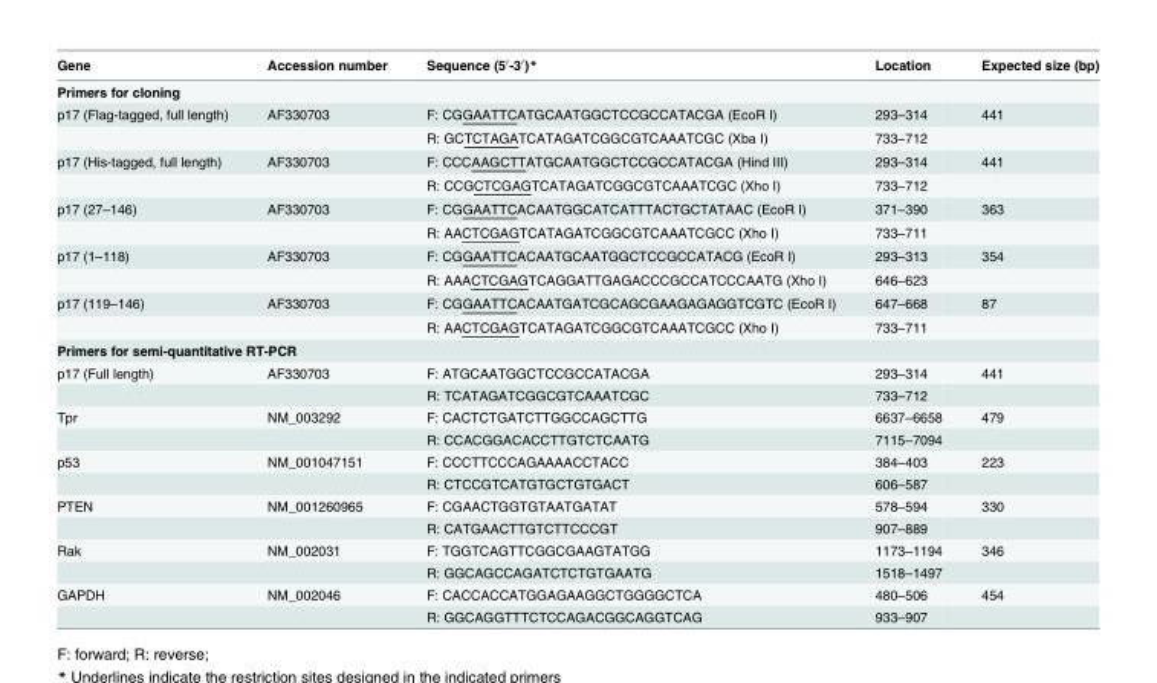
<table><thead><tr><td>Gene</td><td>Accession number</td><td>Sequence (5′-3′)*</td><td>Location</td><td>Expected size (bp)</td></tr></thead><tbody><tr><td colspan="5">Primers for cloning</td></tr><tr><td rowspan="2">p17 (Flag-tagged, full length)</td><td>AF330703</td><td>F: CGGAATTCATGCAATGGCTCCGCCATACGA (EcoR I)</td><td>293–314</td><td>441</td></tr><tr><td></td><td>R: GCTCTAGATCATAGATCGGCGTCAAATCGC (Xba I)</td><td>733–712</td><td></td></tr><tr><td rowspan="2">p17 (His-tagged, full length)</td><td>AF330703</td><td>F: CCCAAGCTTATGCAATGGCTCCGCCATACGA (Hind III)</td><td>293–314</td><td>441</td></tr><tr><td></td><td>R: CCGCTCGAGTCATAGATCGGCGTCAAATCGC (Xho I)</td><td>733–712</td><td></td></tr><tr><td rowspan="2">p17 (27–146)</td><td>AF330703</td><td>F: CGGAATTCACAATGGCATCATTTACTGCTATAAC (EcoR I)</td><td>371–390</td><td>363</td></tr><tr><td></td><td>R: AACTCGAGTCATAGATCGGCGTCAAATCGCC (Xho I)</td><td>733–711</td><td></td></tr><tr><td rowspan="2">p17 (1–118)</td><td>AF330703</td><td>F: CGGAATTCACAATGCAATGGCTCCGCCATACG (EcoR I)</td><td>293–313</td><td>354</td></tr><tr><td></td><td>R: AAACTCGAGTCAGGATTGAGACCCGCCATCCCAATG (Xho I)</td><td>646–623</td><td></td></tr><tr><td rowspan="2">p17 (119–146)</td><td>AF330703</td><td>F: CGGAATTCACAATGATCGCAGCGAAGAGAGGTCGTC (EcoR I)</td><td>647–668</td><td>87</td></tr><tr><td></td><td>R: AACTCGAGTCATAGATCGGCGTCAAATCGCC (Xho I)</td><td>733–711</td><td></td></tr><tr><td colspan="5">Primers for semi-quantitative RT-PCR</td></tr><tr><td rowspan="2">p17 (Full length)</td><td>AF330703</td><td>F: ATGCAATGGCTCCGCCATACGA</td><td>293–314</td><td>441</td></tr><tr><td></td><td>R: TCATAGATCGGCGTCAAATCGC</td><td>733–712</td><td></td></tr><tr><td rowspan="2">Tpr</td><td>NM_003292</td><td>F: CACTCTGATCTTGGCCAGCTTG</td><td>6637–6658</td><td>479</td></tr><tr><td></td><td>R: CCACGGACACCTTGTCTCAATG</td><td>7115–7094</td><td></td></tr><tr><td rowspan="2">p53</td><td>NM_001047151</td><td>F: CCCTTCCCAGAAAACCTACC</td><td>384–403</td><td>223</td></tr><tr><td></td><td>R: CTCCGTCATGTGCTGTGACT</td><td>606–587</td><td></td></tr><tr><td rowspan="2">PTEN</td><td>NM_001260965</td><td>F: CGAACTGGTGTAATGATAT</td><td>578–594</td><td>330</td></tr><tr><td></td><td>R: CATGAACTTGTCTTCCCGT</td><td>907–889</td><td></td></tr><tr><td rowspan="2">Rak</td><td>NM_002031</td><td>F: TGGTCAGTTCGGCGAAGTATGG</td><td>1173–1194</td><td>346</td></tr><tr><td></td><td>R: GGCAGCCAGATCTCTGTGAATG</td><td>1518–1497</td><td></td></tr><tr><td rowspan="2">GAPDH</td><td>NM_002046</td><td>F: CACCACCATGGAGAAGGCTGGGGCTCA</td><td>480–506</td><td>454</td></tr><tr><td></td><td>R: GGCAGGTTTCTCCAGACGGCAGGTCAG</td><td>933–907</td><td></td></tr></tbody></table>